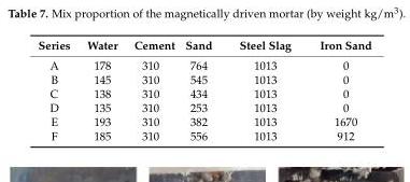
<table><thead><tr><td>Series</td><td>Water</td><td>Cement</td><td>Sand</td><td>Steel Slag</td><td>Iron Sand</td></tr></thead><tbody><tr><td>A</td><td>178</td><td>310</td><td>764</td><td>1013</td><td>0</td></tr><tr><td>B</td><td>145</td><td>310</td><td>545</td><td>1013</td><td>0</td></tr><tr><td>C</td><td>138</td><td>310</td><td>434</td><td>1013</td><td>0</td></tr><tr><td>D</td><td>135</td><td>310</td><td>253</td><td>1013</td><td>0</td></tr><tr><td>E</td><td>193</td><td>310</td><td>382</td><td>1013</td><td>1670</td></tr><tr><td>F</td><td>185</td><td>310</td><td>556</td><td>1013</td><td>912</td></tr></tbody></table>